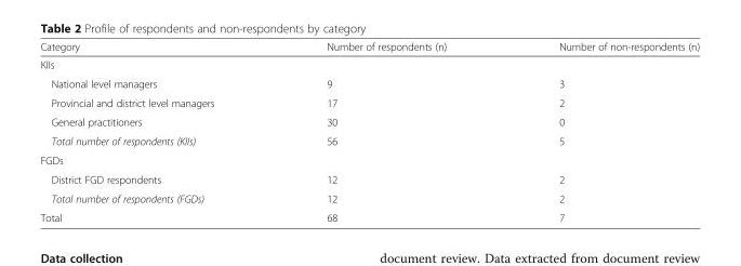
<table><thead><tr><td>Category</td><td>Number of respondents (n)</td><td>Number of non-respondents (n)</td></tr></thead><tbody><tr><td colspan="3">KIIs</td></tr><tr><td>National level managers</td><td>9</td><td>3</td></tr><tr><td>Provincial and district level managers</td><td>17</td><td>2</td></tr><tr><td>General practitioners</td><td>30</td><td>0</td></tr><tr><td>Total number of respondents (KIIs)</td><td>56</td><td>5</td></tr><tr><td colspan="3">FGDs</td></tr><tr><td>District FGD respondents</td><td>12</td><td>2</td></tr><tr><td>Total number of respondents (FGDs)</td><td>12</td><td>2</td></tr><tr><td>Total</td><td>68</td><td>7</td></tr></tbody></table>